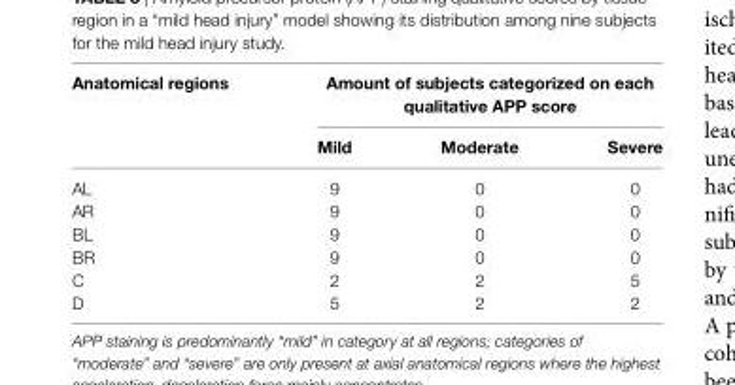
<table><thead><tr><td rowspan="2">anatomical regions</td><td colspan="3">amount of subjects categorized on each qualitative aPP score</td></tr><tr><td>Mild</td><td>Moderate</td><td>severe</td></tr></thead><tbody><tr><td>AL</td><td>9</td><td>0</td><td>0</td></tr><tr><td>AR</td><td>9</td><td>0</td><td>0</td></tr><tr><td>BL</td><td>9</td><td>0</td><td>0</td></tr><tr><td>BR</td><td>9</td><td>0</td><td>0</td></tr><tr><td>C</td><td>2</td><td>2</td><td>5</td></tr><tr><td>D</td><td>5</td><td>2</td><td>2</td></tr></tbody></table>